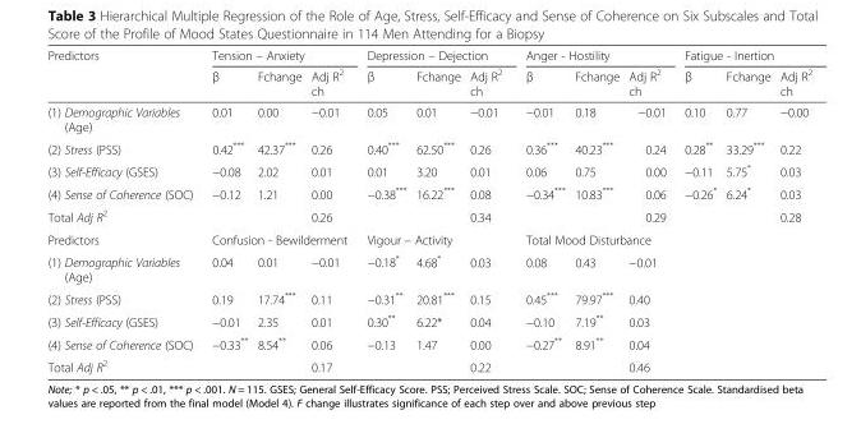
<table><thead><tr><td rowspan="2">Predictors</td><td colspan="3">Tension – Anxiety</td><td colspan="3">Depression – Dejection</td><td colspan="3">Anger - Hostility</td><td colspan="3">Fatigue - Inertion</td></tr><tr><td>β</td><td>Fchange</td><td>Adj R<sup>2</sup> ch</td><td>β</td><td>Fchange</td><td>Adj R<sup>2</sup> ch</td><td>β</td><td>Fchange</td><td>Adj R<sup>2</sup> ch</td><td>β</td><td>Fchange</td><td>Adj R<sup>2</sup> ch</td></tr></thead><tbody><tr><td>(1) Demographic Variables (Age)</td><td>0.01</td><td>0.00</td><td>−0.01</td><td>0.05</td><td>0.01</td><td>−0.01</td><td>−0.01</td><td>0.18</td><td>−0.01</td><td>0.10</td><td>0.77</td><td>−0.00</td></tr><tr><td>(2) Stress (PSS)</td><td>0.42***</td><td>42.37***</td><td>0.26</td><td>0.40***</td><td>62.50***</td><td>0.26</td><td>0.36***</td><td>40.23***</td><td>0.24</td><td>0.28**</td><td>33.29***</td><td>0.22</td></tr><tr><td>(3) Self-Efficacy (GSES)</td><td>−0.08</td><td>2.02</td><td>0.01</td><td>0.01</td><td>3.20</td><td>0.01</td><td>0.06</td><td>0.75</td><td>0.00</td><td>−0.11</td><td>5.75*</td><td>0.03</td></tr><tr><td>(4) Sense of Coherence (SOC)</td><td>−0.12</td><td>1.21</td><td>0.00</td><td>−0.38***</td><td>16.22***</td><td>0.08</td><td>−0.34***</td><td>10.83***</td><td>0.06</td><td>−0.26*</td><td>6.24*</td><td>0.03</td></tr><tr><td>Total Adj R<sup>2</sup></td><td></td><td></td><td>0.26</td><td></td><td></td><td>0.34</td><td></td><td></td><td>0.29</td><td></td><td></td><td>0.28</td></tr><tr><td>Predictors</td><td colspan="3">Confusion - Bewilderment</td><td colspan="3">Vigour – Activity</td><td colspan="6">Total Mood Disturbance</td></tr><tr><td>(1) Demographic Variables (Age)</td><td>0.04</td><td>0.01</td><td>−0.01</td><td>−0.18*</td><td>4.68*</td><td>0.03</td><td>0.08</td><td>0.43</td><td colspan="4">−0.01</td></tr><tr><td>(2) Stress (PSS)</td><td>0.19</td><td>17.74***</td><td>0.11</td><td>−0.31**</td><td>20.81***</td><td>0.15</td><td>0.45***</td><td>79.97***</td><td colspan="4">0.40</td></tr><tr><td>(3) Self-Efficacy (GSES)</td><td>−0.01</td><td>2.35</td><td>0.01</td><td>0.30**</td><td>6.22*</td><td>0.04</td><td>−0.10</td><td>7.19**</td><td colspan="4">0.03</td></tr><tr><td>(4) Sense of Coherence (SOC)</td><td>−0.33**</td><td>8.54**</td><td>0.06</td><td>−0.13</td><td>1.47</td><td>0.00</td><td>−0.27**</td><td>8.91**</td><td colspan="4">0.04</td></tr><tr><td>Total Adj R<sup>2</sup></td><td></td><td></td><td>0.17</td><td></td><td></td><td>0.22</td><td></td><td></td><td colspan="4">0.46</td></tr></tbody></table>